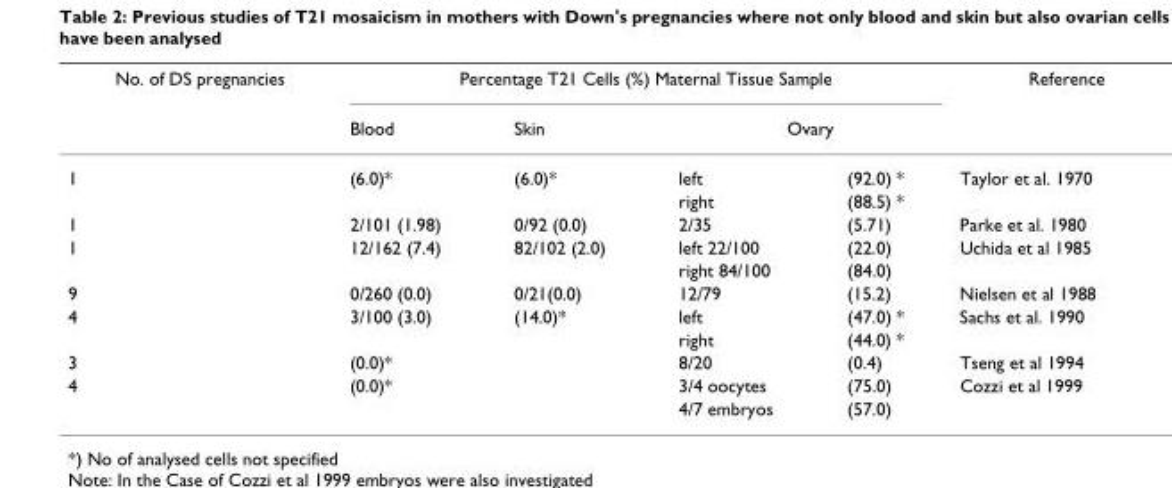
<table><thead><tr><td rowspan="3">No. of DS pregnancies 1</td><td colspan="4">Percentage T21 Cells (%) Maternal Tissue Sample</td><td rowspan="3">Reference Taylor et al. 1970</td></tr><tr><td rowspan="2">Blood (6.0)*</td><td rowspan="2">Skin (6.0)*</td><td colspan="2">Ovary</td></tr><tr><td>left</td><td>(92.0) *</td></tr></thead><tbody><tr><td></td><td></td><td></td><td>right</td><td>(88.5) *</td><td></td></tr><tr><td>1</td><td>2/101 (1.98)</td><td>0/92 (0.0)</td><td>2/35</td><td>(5.71)</td><td>Parke et al. 1980</td></tr><tr><td rowspan="2">1</td><td>12/162 (7.4)</td><td>82/102 (2.0)</td><td>left 22/100</td><td>(22.0)</td><td>Uchida et al 1985</td></tr><tr><td></td><td></td><td>right 84/100</td><td>(84.0)</td><td></td></tr><tr><td>9</td><td>0/260 (0.0)</td><td>0/21(0.0)</td><td>12/79</td><td>(15.2)</td><td>Nielsen et al 1988</td></tr><tr><td rowspan="2">4</td><td>3/100 (3.0)</td><td>(14.0)*</td><td>left</td><td>(47.0) *</td><td>Sachs et al. 1990</td></tr><tr><td></td><td></td><td>right</td><td>(44.0) *</td><td></td></tr><tr><td>3</td><td>(0.0)*</td><td></td><td>8/20</td><td>(0.4)</td><td>Tseng et al 1994</td></tr><tr><td rowspan="2">4</td><td>(0.0)*</td><td></td><td>3/4 oocytes</td><td>(75.0)</td><td>Cozzi et al 1999</td></tr><tr><td></td><td></td><td>4/7 embryos</td><td>(57.0)</td><td></td></tr></tbody></table>